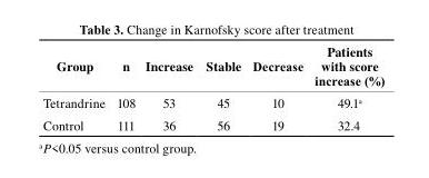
<table><thead><tr><td>Group</td><td>n</td><td>Increase</td><td>stable</td><td>Decrease</td><td>Patients with score increase (%)</td></tr></thead><tbody><tr><td>Tetrandrine</td><td>108</td><td>53</td><td>45</td><td>10</td><td>49.1<sup>a</sup></td></tr><tr><td>Control</td><td>111</td><td>36</td><td>56</td><td>19</td><td>32.4</td></tr></tbody></table>